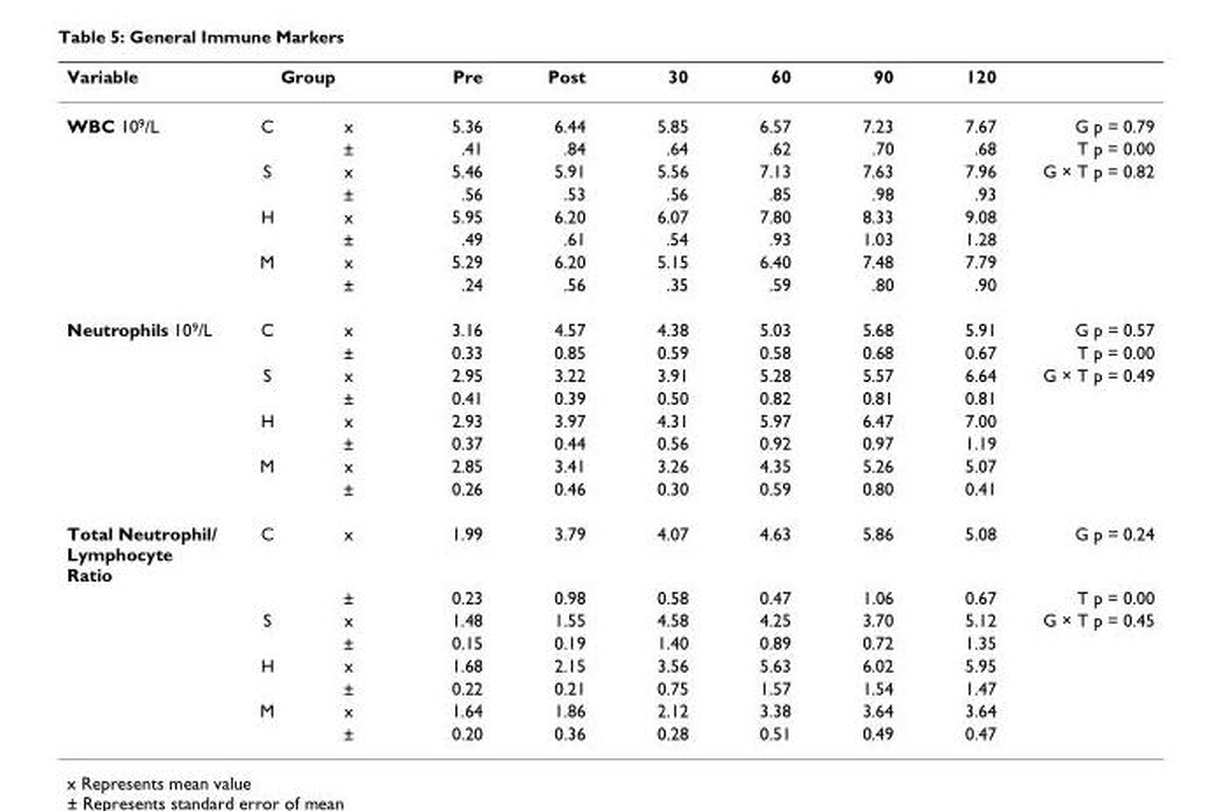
<table><thead><tr><td rowspan="2">Variable WBC 10<sup>9</sup>/L</td><td colspan="2">Group</td><td rowspan="2">Pre 5.36</td><td rowspan="2">Post 6.44</td><td rowspan="2">30 5.85</td><td rowspan="2">60 6.57</td><td rowspan="2">90 7.23</td><td rowspan="2">120 7.67</td><td rowspan="2">G p = 0.79</td></tr><tr><td>C</td><td>x</td></tr></thead><tbody><tr><td></td><td></td><td>±</td><td>.41</td><td>.84</td><td>.64</td><td>.62</td><td>.70</td><td>.68</td><td>T p = 0.00</td></tr><tr><td></td><td>S</td><td>x</td><td>5.46</td><td>5.91</td><td>5.56</td><td>7.13</td><td>7.63</td><td>7.96</td><td>G × T p = 0.82</td></tr><tr><td></td><td></td><td>±</td><td>.56</td><td>.53</td><td>.56</td><td>.85</td><td>.98</td><td>.93</td><td></td></tr><tr><td></td><td>H</td><td>x</td><td>5.95</td><td>6.20</td><td>6.07</td><td>7.80</td><td>8.33</td><td>9.08</td><td></td></tr><tr><td></td><td></td><td>±</td><td>.49</td><td>.61</td><td>.54</td><td>.93</td><td>1.03</td><td>1.28</td><td></td></tr><tr><td></td><td>M</td><td>x</td><td>5.29</td><td>6.20</td><td>5.15</td><td>6.40</td><td>7.48</td><td>7.79</td><td></td></tr><tr><td></td><td></td><td>±</td><td>.24</td><td>.56</td><td>.35</td><td>.59</td><td>.80</td><td>.90</td><td></td></tr><tr><td rowspan="8">Neutrophils 10<sup>9</sup>/L</td><td>C</td><td>x</td><td>3.16</td><td>4.57</td><td>4.38</td><td>5.03</td><td>5.68</td><td>5.91</td><td>G p = 0.57</td></tr><tr><td></td><td>±</td><td>0.33</td><td>0.85</td><td>0.59</td><td>0.58</td><td>0.68</td><td>0.67</td><td>T p = 0.00</td></tr><tr><td>S</td><td>x</td><td>2.95</td><td>3.22</td><td>3.91</td><td>5.28</td><td>5.57</td><td>6.64</td><td>G × T p = 0.49</td></tr><tr><td></td><td>±</td><td>0.41</td><td>0.39</td><td>0.50</td><td>0.82</td><td>0.81</td><td>0.81</td><td></td></tr><tr><td>H</td><td>x</td><td>2.93</td><td>3.97</td><td>4.31</td><td>5.97</td><td>6.47</td><td>7.00</td><td></td></tr><tr><td></td><td>±</td><td>0.37</td><td>0.44</td><td>0.56</td><td>0.92</td><td>0.97</td><td>1.19</td><td></td></tr><tr><td>M</td><td>x</td><td>2.85</td><td>3.41</td><td>3.26</td><td>4.35</td><td>5.26</td><td>5.07</td><td></td></tr><tr><td></td><td>±</td><td>0.26</td><td>0.46</td><td>0.30</td><td>0.59</td><td>0.80</td><td>0.41</td><td></td></tr><tr><td rowspan="8">Total Neutrophil/ Lymphocyte Ratio</td><td>C</td><td>x</td><td>1.99</td><td>3.79</td><td>4.07</td><td>4.63</td><td>5.86</td><td>5.08</td><td>G p = 0.24</td></tr><tr><td></td><td>±</td><td>0.23</td><td>0.98</td><td>0.58</td><td>0.47</td><td>1.06</td><td>0.67</td><td>T p = 0.00</td></tr><tr><td>S</td><td>x</td><td>1.48</td><td>1.55</td><td>4.58</td><td>4.25</td><td>3.70</td><td>5.12</td><td>G × T p = 0.45</td></tr><tr><td></td><td>±</td><td>0.15</td><td>0.19</td><td>1.40</td><td>0.89</td><td>0.72</td><td>1.35</td><td></td></tr><tr><td>H</td><td>x</td><td>1.68</td><td>2.15</td><td>3.56</td><td>5.63</td><td>6.02</td><td>5.95</td><td></td></tr><tr><td></td><td>±</td><td>0.22</td><td>0.21</td><td>0.75</td><td>1.57</td><td>1.54</td><td>1.47</td><td></td></tr><tr><td>M</td><td>x</td><td>1.64</td><td>1.86</td><td>2.12</td><td>3.38</td><td>3.64</td><td>3.64</td><td></td></tr><tr><td></td><td>±</td><td>0.20</td><td>0.36</td><td>0.28</td><td>0.51</td><td>0.49</td><td>0.47</td><td></td></tr></tbody></table>